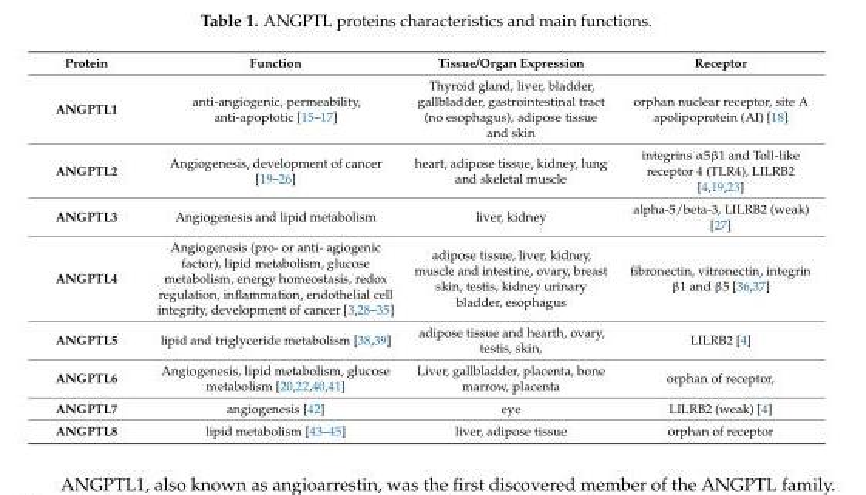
<table><thead><tr><td>Protein</td><td>Function</td><td>Tissue/Organ Expression</td><td>Receptor</td></tr></thead><tbody><tr><td>ANGPTL1</td><td>anti-angiogenic, permeability, anti-apoptotic [15–17]</td><td>Thyroid gland, liver, bladder, gallbladder, gastrointestinal tract (no esophagus), adipose tissue and skin</td><td>orphan nuclear receptor, site A apolipoprotein (AI) [18]</td></tr><tr><td>ANGPTL2</td><td>Angiogenesis, development of cancer [19–26]</td><td>heart, adipose tissue, kidney, lung and skeletal muscle</td><td>integrins α5β1 and Toll-like receptor 4 (TLR4), LILRB2 [4,19,23]</td></tr><tr><td>ANGPTL3</td><td>Angiogenesis and lipid metabolism</td><td>liver, kidney</td><td>alpha-5/beta-3, LILRB2 (weak) [27]</td></tr><tr><td>ANGPTL4</td><td>Angiogenesis (pro- or anti- agiogenic factor), lipid metabolism, glucose metabolism, energy homeostasis, redox regulation, inflammation, endothelial cell integrity, development of cancer [3,28–35]</td><td>adipose tissue, liver, kidney, muscle and intestine, ovary, breast skin, testis, kidney urinary bladder, esophagus</td><td>fibronectin, vitronectin, integrin β1 and β5 [36,37]</td></tr><tr><td>ANGPTL5</td><td>lipid and triglyceride metabolism [38,39]</td><td>adipose tissue and hearth, ovary, testis, skin,</td><td>LILRB2 [4]</td></tr><tr><td>ANGPTL6</td><td>Angiogenesis, lipid metabolism, glucose metabolism [20,22,40,41]</td><td>Liver, gallbladder, placenta, bone marrow, placenta</td><td>orphan of receptor,</td></tr><tr><td>ANGPTL7</td><td>angiogenesis [42]</td><td>eye</td><td>LILRB2 (weak) [4]</td></tr><tr><td>ANGPTL8</td><td>lipid metabolism [43–45]</td><td>liver, adipose tissue</td><td>orphan of receptor</td></tr></tbody></table>